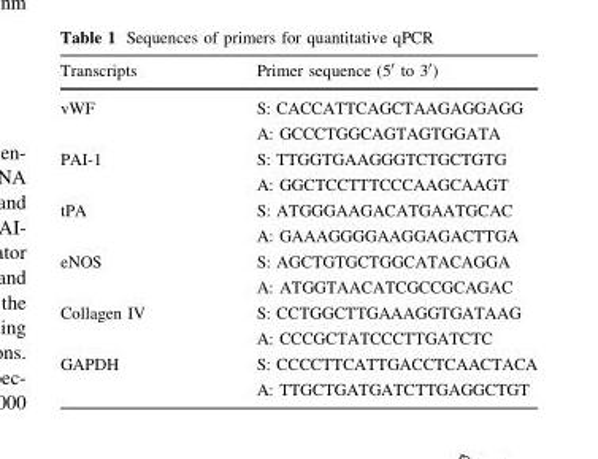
<table><thead><tr><td>Transcripts</td><td>Primer sequence (5′ to 3′)</td></tr></thead><tbody><tr><td rowspan="2">vWF</td><td>S: CACCATTCAGCTAAGAGGAGG</td></tr><tr><td>A: GCCCTGGCAGTAGTGGATA</td></tr><tr><td rowspan="2">PAI-1</td><td>S: TTGGTGAAGGGTCTGCTGTG</td></tr><tr><td>A: GGCTCCTTTCCCAAGCAAGT</td></tr><tr><td rowspan="2">tPA</td><td>S: ATGGGAAGACATGAATGCAC</td></tr><tr><td>A: GAAAGGGGAAGGAGACTTGA</td></tr><tr><td rowspan="2">eNOS</td><td>S: AGCTGTGCTGGCATACAGGA</td></tr><tr><td>A: ATGGTAACATCGCCGCAGAC</td></tr><tr><td rowspan="2">Collagen IV</td><td>S: CCTGGCTTGAAAGGTGATAAG</td></tr><tr><td>A: CCCGCTATCCCTTGATCTC</td></tr><tr><td rowspan="2">GAPDH</td><td>S: CCCCTTCATTGACCTCAACTACA</td></tr><tr><td>A: TTGCTGATGATCTTGAGGCTGT</td></tr></tbody></table>